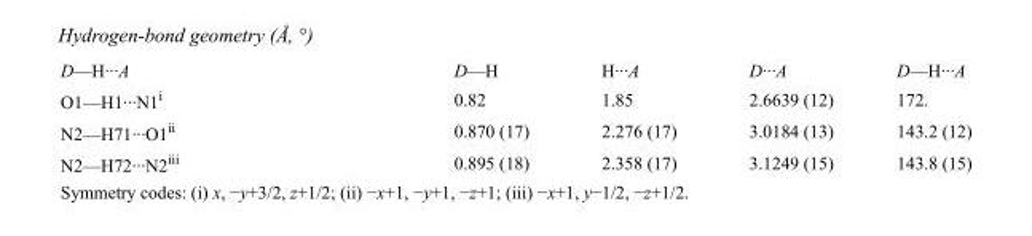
<table><tbody><tr><td>D—H···A</td><td>D—H</td><td>H···A</td><td>D···A</td><td>D—H···A</td></tr><tr><td>O1—H1···N1<sup>i</sup></td><td>0.82</td><td>1.85</td><td>2.6639 (12)</td><td>172.</td></tr><tr><td>N2—H71···O1<sup>ii</sup></td><td>0.870 (17)</td><td>2.276 (17)</td><td>3.0184 (13)</td><td>143.2 (12)</td></tr><tr><td>N2—H72···N2<sup>iii</sup></td><td>0.895 (18)</td><td>2.358 (17)</td><td>3.1249 (15)</td><td>143.8 (15)</td></tr></tbody></table>